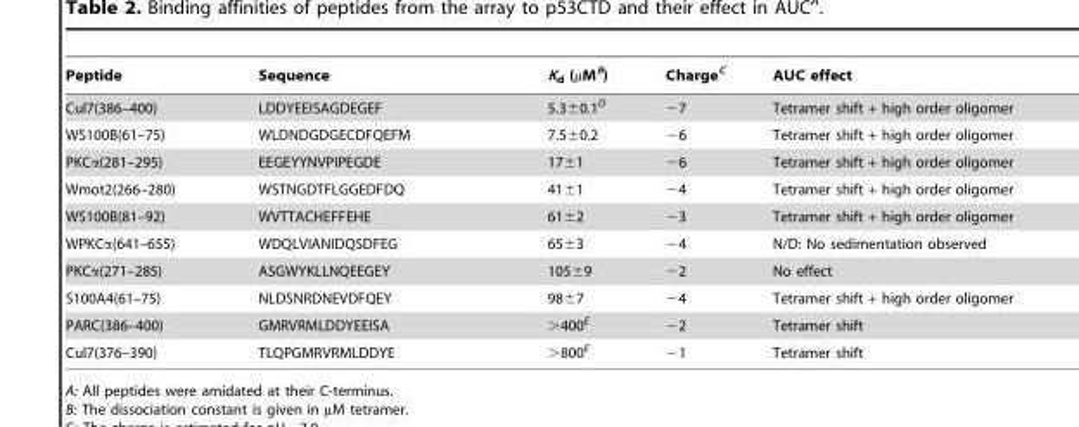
<table><thead><tr><td>Peptide</td><td>Sequence</td><td>K<sub>d</sub> (µM<sup>B</sup>)</td><td>Charge<sup>C</sup></td><td>AUC effect</td></tr></thead><tbody><tr><td>Cul7(386–400)</td><td>LDDYEEISAGDEGEF</td><td>5.3±0.1<sup>D</sup></td><td>−7</td><td>Tetramer shift + high order oligomer</td></tr><tr><td>WS100B(61–75)</td><td>WLDNDGDGECDFQEFM</td><td>7.5±0.2</td><td>−6</td><td>Tetramer shift + high order oligomer</td></tr><tr><td>PKCα(281–295)</td><td>EEGEYYNVPIPEGDE</td><td>17±1</td><td>−6</td><td>Tetramer shift + high order oligomer</td></tr><tr><td>Wmot2(266–280)</td><td>WSTNGDTFLGGEDFDQ</td><td>41±1</td><td>−4</td><td>Tetramer shift + high order oligomer</td></tr><tr><td>WS100B(81–92)</td><td>WVTTACHEFFEHE</td><td>61±2</td><td>−3</td><td>Tetramer shift + high order oligomer</td></tr><tr><td>WPKCα(641–655)</td><td>WDQLVIANIDQSDFEG</td><td>65±3</td><td>−4</td><td>N/D: No sedimentation observed</td></tr><tr><td>PKCα(271–285)</td><td>ASGWYKLLNQEEGEY</td><td>105±9</td><td>−2</td><td>No effect</td></tr><tr><td>S100A4(61–75)</td><td>NLDSNRDNEVDFQEY</td><td>98±7</td><td>−4</td><td>Tetramer shift + high order oligomer</td></tr><tr><td>PARC(386–400)</td><td>GMRVRMLDDYEEISA</td><td>&gt;400<sup>E</sup></td><td>−2</td><td>Tetramer shift</td></tr><tr><td>Cul7(376–390)</td><td>TLQPGMRVRMLDDYE</td><td>&gt;800<sup>E</sup></td><td>−1</td><td>Tetramer shift</td></tr></tbody></table>